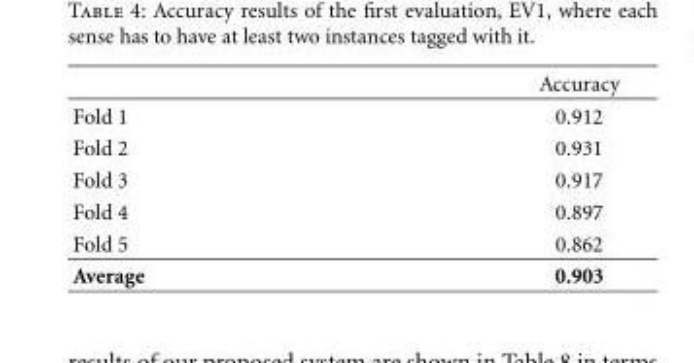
<table><thead><tr><td></td><td>Accuracy</td></tr></thead><tbody><tr><td>Fold 1</td><td>0.912</td></tr><tr><td>Fold 2</td><td>0.931</td></tr><tr><td>Fold 3</td><td>0.917</td></tr><tr><td>Fold 4</td><td>0.897</td></tr><tr><td>Fold 5</td><td>0.862</td></tr><tr><td>Average</td><td>0.903</td></tr></tbody></table>